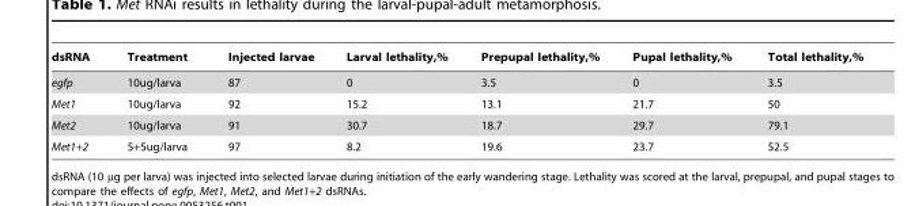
<table><thead><tr><td>dsRNA</td><td>Treatment</td><td>Injected larvae</td><td>Larval lethality,%</td><td>Prepupal lethality,%</td><td>Pupal lethality,%</td><td>Total lethality,%</td></tr></thead><tbody><tr><td>egfp</td><td>10ug/larva</td><td>87</td><td>0</td><td>3.5</td><td>0</td><td>3.5</td></tr><tr><td>Met1</td><td>10ug/larva</td><td>92</td><td>15.2</td><td>13.1</td><td>21.7</td><td>50</td></tr><tr><td>Met2</td><td>10ug/larva</td><td>91</td><td>30.7</td><td>18.7</td><td>29.7</td><td>79.1</td></tr><tr><td>Met1+2</td><td>5+5ug/larva</td><td>97</td><td>8.2</td><td>19.6</td><td>23.7</td><td>52.5</td></tr></tbody></table>